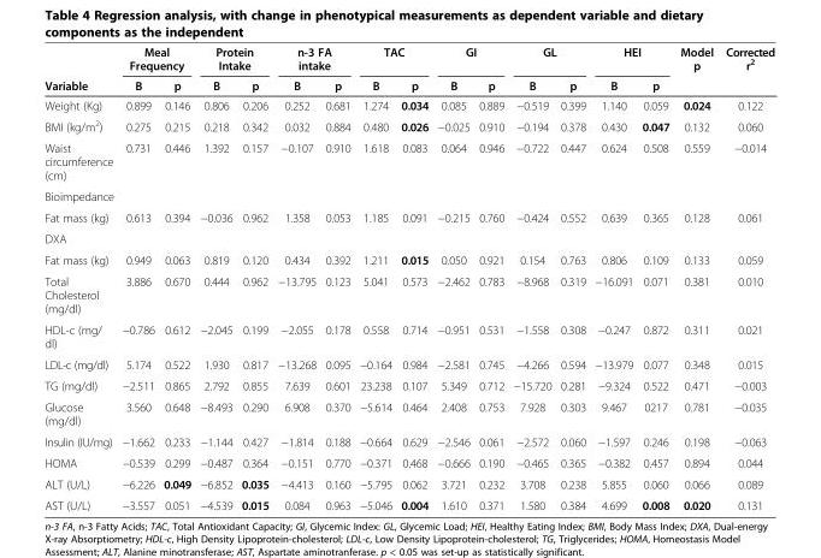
<table><thead><tr><td rowspan="2">Variable</td><td colspan="2">Meal Frequency</td><td colspan="2">Protein Intake</td><td colspan="2">n-3 FA intake</td><td colspan="2">TAC</td><td colspan="2">GI</td><td colspan="2">GL</td><td colspan="2">HEI</td><td rowspan="2">Model p</td><td rowspan="2">Corrected r<sup>2</sup></td></tr><tr><td>B</td><td>p</td><td>B</td><td>p</td><td>B</td><td>p</td><td>B</td><td>p</td><td>B</td><td>p</td><td>B</td><td>p</td><td>B</td><td>p</td></tr></thead><tbody><tr><td>Weight (Kg)</td><td>0.899</td><td>0.146</td><td>0.806</td><td>0.206</td><td>0.252</td><td>0.681</td><td>1.274</td><td>0.034</td><td>0.085</td><td>0.889</td><td>−0.519</td><td>0.399</td><td>1.140</td><td>0.059</td><td>0.024</td><td>0.122</td></tr><tr><td>BMI (kg/m<sup>2</sup>)</td><td>0.275</td><td>0.215</td><td>0.218</td><td>0.342</td><td>0.032</td><td>0.884</td><td>0.480</td><td>0.026</td><td>−0.025</td><td>0.910</td><td>−0.194</td><td>0.378</td><td>0.430</td><td>0.047</td><td>0.132</td><td>0.060</td></tr><tr><td>Waist circumference (cm)</td><td>0.731</td><td>0.446</td><td>1.392</td><td>0.157</td><td>−0.107</td><td>0.910</td><td>1.618</td><td>0.083</td><td>0.064</td><td>0.946</td><td>−0.722</td><td>0.447</td><td>0.624</td><td>0.508</td><td>0.559</td><td>−0.014</td></tr><tr><td colspan="17">Bioimpedance</td></tr><tr><td>Fat mass (kg)</td><td>0.613</td><td>0.394</td><td>−0.036</td><td>0.962</td><td>1.358</td><td>0.053</td><td>1.185</td><td>0.091</td><td>−0.215</td><td>0.760</td><td>−0.424</td><td>0.552</td><td>0.639</td><td>0.365</td><td>0.128</td><td>0.061</td></tr><tr><td colspan="17">DXA</td></tr><tr><td>Fat mass (kg)</td><td>0.949</td><td>0.063</td><td>0.819</td><td>0.120</td><td>0.434</td><td>0.392</td><td>1.211</td><td>0.015</td><td>0.050</td><td>0.921</td><td>0.154</td><td>0.763</td><td>0.806</td><td>0.109</td><td>0.133</td><td>0.059</td></tr><tr><td>Total Cholesterol (mg/dl)</td><td>3.886</td><td>0.670</td><td>0.444</td><td>0.962</td><td>−13.795</td><td>0.123</td><td>5.041</td><td>0.573</td><td>−2.462</td><td>0.783</td><td>−8.968</td><td>0.319</td><td>−16.091</td><td>0.071</td><td>0.381</td><td>0.010</td></tr><tr><td>HDL-c (mg/ dl)</td><td>−0.786</td><td>0.612</td><td>−2.045</td><td>0.199</td><td>−2.055</td><td>0.178</td><td>0.558</td><td>0.714</td><td>−0.951</td><td>0.531</td><td>−1.558</td><td>0.308</td><td>−0.247</td><td>0.872</td><td>0.311</td><td>0.021</td></tr><tr><td>LDL-c (mg/dl)</td><td>5.174</td><td>0.522</td><td>1.930</td><td>0.817</td><td>−13.268</td><td>0.095</td><td>−0.164</td><td>0.984</td><td>−2.581</td><td>0.745</td><td>−4.266</td><td>0.594</td><td>−13.979</td><td>0.077</td><td>0.348</td><td>0.015</td></tr><tr><td>TG (mg/dl)</td><td>−2.511</td><td>0.865</td><td>2.792</td><td>0.855</td><td>7.639</td><td>0.601</td><td>23.238</td><td>0.107</td><td>5.349</td><td>0.712</td><td>−15.720</td><td>0.281</td><td>−9.324</td><td>0.522</td><td>0.471</td><td>−0.003</td></tr><tr><td>Glucose (mg/dl)</td><td>3.560</td><td>0.648</td><td>−8.493</td><td>0.290</td><td>6.908</td><td>0.370</td><td>−5.614</td><td>0.464</td><td>2.408</td><td>0.753</td><td>7.928</td><td>0.303</td><td>9.467</td><td>0217</td><td>0.781</td><td>−0.035</td></tr><tr><td>Insulin (IU/mg)</td><td>−1.662</td><td>0.233</td><td>−1.144</td><td>0.427</td><td>−1.814</td><td>0.188</td><td>−0.664</td><td>0.629</td><td>−2.546</td><td>0.061</td><td>−2.572</td><td>0.060</td><td>−1.597</td><td>0.246</td><td>0.198</td><td>−0.063</td></tr><tr><td>HOMA</td><td>−0.539</td><td>0.299</td><td>−0.487</td><td>0.364</td><td>−0.151</td><td>0.770</td><td>−0.371</td><td>0.468</td><td>−0.666</td><td>0.190</td><td>−0.465</td><td>0.365</td><td>−0.382</td><td>0.457</td><td>0.894</td><td>0.044</td></tr><tr><td>ALT (U/L)</td><td>−6.226</td><td>0.049</td><td>−6.852</td><td>0.035</td><td>−4.413</td><td>0.160</td><td>−5.795</td><td>0.062</td><td>3.721</td><td>0.232</td><td>3.708</td><td>0.238</td><td>5.855</td><td>0.060</td><td>0.066</td><td>0.089</td></tr><tr><td>AST (U/L)</td><td>−3.557</td><td>0.051</td><td>−4.539</td><td>0.015</td><td>0.084</td><td>0.963</td><td>−5.046</td><td>0.004</td><td>1.610</td><td>0.371</td><td>1.580</td><td>0.384</td><td>4.699</td><td>0.008</td><td>0.020</td><td>0.131</td></tr></tbody></table>